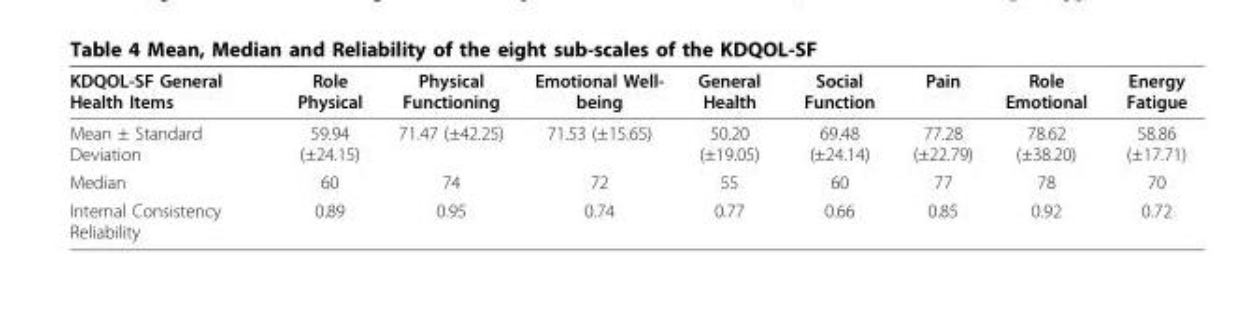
<table><thead><tr><td>KDQOL-SF General Health Items</td><td>Role Physical</td><td>Physical Functioning</td><td>Emotional Well- being</td><td>General Health</td><td>Social Function</td><td>Pain</td><td>Role Emotional</td><td>Energy Fatigue</td></tr></thead><tbody><tr><td>Mean ± Standard Deviation</td><td>59.94 (±24.15)</td><td>71.47 (±42.25)</td><td>71.53 (±15.65)</td><td>50.20 (±19.05)</td><td>69.48 (±24.14)</td><td>77.28 (±22.79)</td><td>78.62 (±38.20)</td><td>58.86 (±17.71)</td></tr><tr><td>Median</td><td>60</td><td>74</td><td>72</td><td>55</td><td>60</td><td>77</td><td>78</td><td>70</td></tr><tr><td>Internal Consistency Reliability</td><td>0.89</td><td>0.95</td><td>0.74</td><td>0.77</td><td>0.66</td><td>0.85</td><td>0.92</td><td>0.72</td></tr></tbody></table>